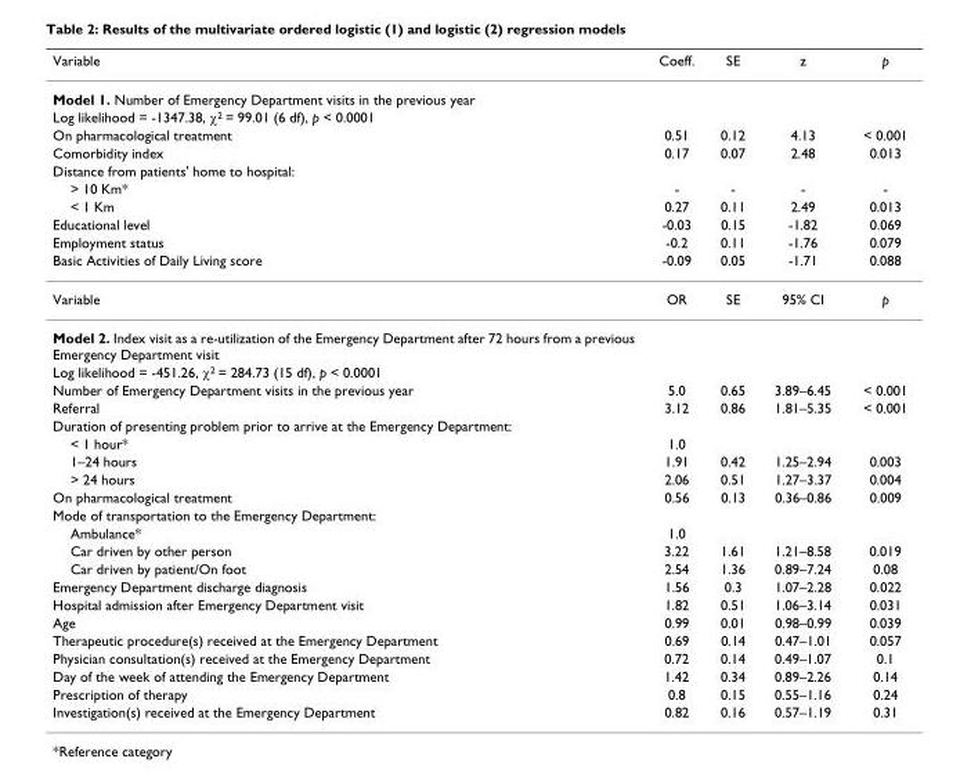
<table><thead><tr><td>Variable</td><td>Coeff.</td><td>SE</td><td>z</td><td>p</td></tr></thead><tbody><tr><td colspan="5">Model 1. Number of Emergency Department visits in the previous year</td></tr><tr><td colspan="5">Log likelihood = -1347.38, χ<sup>2</sup> = 99.01 (6 df), p &lt; 0.0001</td></tr><tr><td>On pharmacological treatment</td><td>0.51</td><td>0.12</td><td>4.13</td><td>&lt; 0.001</td></tr><tr><td>Comorbidity index</td><td>0.17</td><td>0.07</td><td>2.48</td><td>0.013</td></tr><tr><td colspan="5">Distance from patients&#x27; home to hospital:</td></tr><tr><td>&gt; 10 Km*</td><td>-</td><td>-</td><td>-</td><td>-</td></tr><tr><td>&lt; 1 Km</td><td>0.27</td><td>0.11</td><td>2.49</td><td>0.013</td></tr><tr><td>Educational level</td><td>-0.03</td><td>0.15</td><td>-1.82</td><td>0.069</td></tr><tr><td>Employment status</td><td>-0.2</td><td>0.11</td><td>-1.76</td><td>0.079</td></tr><tr><td>Basic Activities of Daily Living score</td><td>-0.09</td><td>0.05</td><td>-1.71</td><td>0.088</td></tr><tr><td>Variable</td><td>OR</td><td>SE</td><td>95% CI</td><td>p</td></tr><tr><td colspan="5">Model 2. Index visit as a re-utilization of the Emergency Department after 72 hours from a previous Emergency Department visit</td></tr><tr><td colspan="5">Log likelihood = -451.26, χ<sup>2</sup> = 284.73 (15 df), p &lt; 0.0001</td></tr><tr><td>Number of Emergency Department visits in the previous year</td><td>5.0</td><td>0.65</td><td>3.89–6.45</td><td>&lt; 0.001</td></tr><tr><td>Referral</td><td>3.12</td><td>0.86</td><td>1.81–5.35</td><td>&lt; 0.001</td></tr><tr><td colspan="5">Duration of presenting problem prior to arrive at the Emergency Department:</td></tr><tr><td>&lt; 1 hour*</td><td>1.0</td><td></td><td></td><td></td></tr><tr><td>1–24 hours</td><td>1.91</td><td>0.42</td><td>1.25–2.94</td><td>0.003</td></tr><tr><td>&gt; 24 hours</td><td>2.06</td><td>0.51</td><td>1.27–3.37</td><td>0.004</td></tr><tr><td>On pharmacological treatment</td><td>0.56</td><td>0.13</td><td>0.36–0.86</td><td>0.009</td></tr><tr><td colspan="5">Mode of transportation to the Emergency Department:</td></tr><tr><td>Ambulance*</td><td>1.0</td><td></td><td></td><td></td></tr><tr><td>Car driven by other person</td><td>3.22</td><td>1.61</td><td>1.21–8.58</td><td>0.019</td></tr><tr><td>Car driven by patient/On foot</td><td>2.54</td><td>1.36</td><td>0.89–7.24</td><td>0.08</td></tr><tr><td>Emergency Department discharge diagnosis</td><td>1.56</td><td>0.3</td><td>1.07–2.28</td><td>0.022</td></tr><tr><td>Hospital admission after Emergency Department visit</td><td>1.82</td><td>0.51</td><td>1.06–3.14</td><td>0.031</td></tr><tr><td>Age</td><td>0.99</td><td>0.01</td><td>0.98–0.99</td><td>0.039</td></tr><tr><td>Therapeutic procedure(s) received at the Emergency Department</td><td>0.69</td><td>0.14</td><td>0.47–1.01</td><td>0.057</td></tr><tr><td>Physician consultation(s) received at the Emergency Department</td><td>0.72</td><td>0.14</td><td>0.49–1.07</td><td>0.1</td></tr><tr><td>Day of the week of attending the Emergency Department</td><td>1.42</td><td>0.34</td><td>0.89–2.26</td><td>0.14</td></tr><tr><td>Prescription of therapy</td><td>0.8</td><td>0.15</td><td>0.55–1.16</td><td>0.24</td></tr><tr><td>Investigation(s) received at the Emergency Department</td><td>0.82</td><td>0.16</td><td>0.57–1.19</td><td>0.31</td></tr></tbody></table>